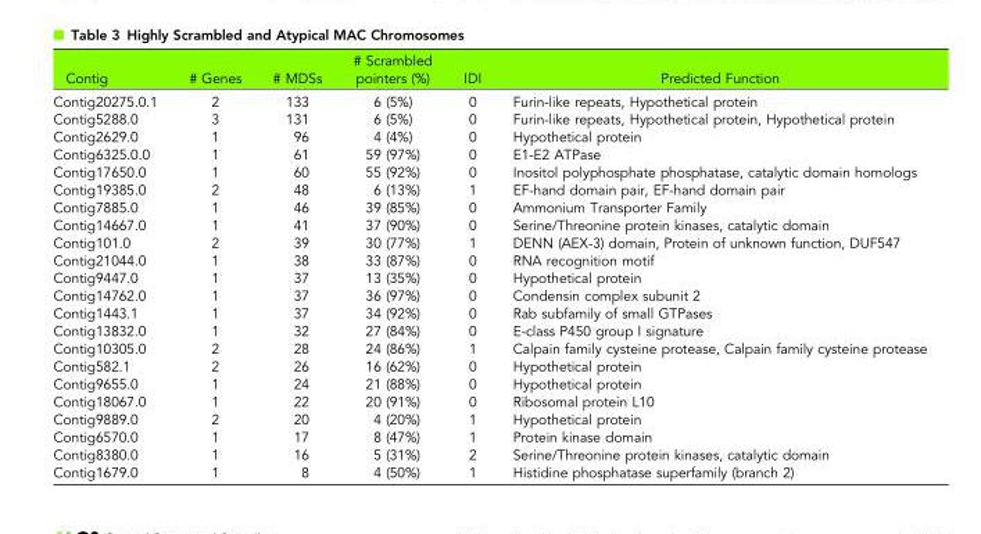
<table><thead><tr><td>Contig</td><td># Genes</td><td># MDSs</td><td># Scrambled pointers (%)</td><td>IDI</td><td>Predicted Function</td></tr></thead><tbody><tr><td>Contig20275.0.1</td><td>2</td><td>133</td><td>6 (5%)</td><td>0</td><td>Furin-like repeats, Hypothetical protein</td></tr><tr><td>Contig5288.0</td><td>3</td><td>131</td><td>6 (5%)</td><td>0</td><td>Furin-like repeats, Hypothetical protein, Hypothetical protein</td></tr><tr><td>Contig2629.0</td><td>1</td><td>96</td><td>4 (4%)</td><td>0</td><td>Hypothetical protein</td></tr><tr><td>Contig6325.0.0</td><td>1</td><td>61</td><td>59 (97%)</td><td>0</td><td>E1-E2 ATPase</td></tr><tr><td>Contig17650.0</td><td>1</td><td>60</td><td>55 (92%)</td><td>0</td><td>Inositol polyphosphate phosphatase, catalytic domain homologs</td></tr><tr><td>Contig19385.0</td><td>2</td><td>48</td><td>6 (13%)</td><td>1</td><td>EF-hand domain pair, EF-hand domain pair</td></tr><tr><td>Contig7885.0</td><td>1</td><td>46</td><td>39 (85%)</td><td>0</td><td>Ammonium Transporter Family</td></tr><tr><td>Contig14667.0</td><td>1</td><td>41</td><td>37 (90%)</td><td>0</td><td>Serine/Threonine protein kinases, catalytic domain</td></tr><tr><td>Contig101.0</td><td>2</td><td>39</td><td>30 (77%)</td><td>1</td><td>DENN (AEX-3) domain, Protein of unknown function, DUF547</td></tr><tr><td>Contig21044.0</td><td>1</td><td>38</td><td>33 (87%)</td><td>0</td><td>RNA recognition motif</td></tr><tr><td>Contig9447.0</td><td>1</td><td>37</td><td>13 (35%)</td><td>0</td><td>Hypothetical protein</td></tr><tr><td>Contig14762.0</td><td>1</td><td>37</td><td>36 (97%)</td><td>0</td><td>Condensin complex subunit 2</td></tr><tr><td>Contig1443.1</td><td>1</td><td>37</td><td>34 (92%)</td><td>0</td><td>Rab subfamily of small GTPases</td></tr><tr><td>Contig13832.0</td><td>1</td><td>32</td><td>27 (84%)</td><td>0</td><td>E-class P450 group I signature</td></tr><tr><td>Contig10305.0</td><td>2</td><td>28</td><td>24 (86%)</td><td>1</td><td>Calpain family cysteine protease, Calpain family cysteine protease</td></tr><tr><td>Contig582.1</td><td>2</td><td>26</td><td>16 (62%)</td><td>0</td><td>Hypothetical protein</td></tr><tr><td>Contig9655.0</td><td>1</td><td>24</td><td>21 (88%)</td><td>0</td><td>Hypothetical protein</td></tr><tr><td>Contig18067.0</td><td>1</td><td>22</td><td>20 (91%)</td><td>0</td><td>Ribosomal protein L10</td></tr><tr><td>Contig9889.0</td><td>2</td><td>20</td><td>4 (20%)</td><td>1</td><td>Hypothetical protein</td></tr><tr><td>Contig6570.0</td><td>1</td><td>17</td><td>8 (47%)</td><td>1</td><td>Protein kinase domain</td></tr><tr><td>Contig8380.0</td><td>1</td><td>16</td><td>5 (31%)</td><td>2</td><td>Serine/Threonine protein kinases, catalytic domain</td></tr><tr><td>Contig1679.0</td><td>1</td><td>8</td><td>4 (50%)</td><td>1</td><td>Histidine phosphatase superfamily (branch 2)</td></tr></tbody></table>